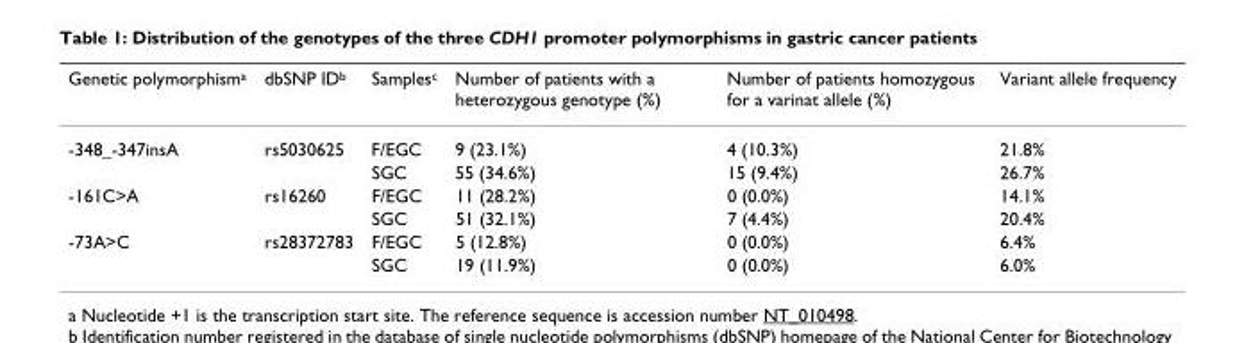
<table><thead><tr><td>Genetic polymorphism<sup>a</sup></td><td>dbSNP ID<sup>b</sup></td><td>Samples<sup>c</sup></td><td>Number of patients with a heterozygous genotype (%)</td><td>Number of patients homozygous for a varinat allele (%)</td><td>Variant allele frequency</td></tr></thead><tbody><tr><td rowspan="2">-348_-347insA</td><td>rs5030625</td><td>F/EGC</td><td>9 (23.1%)</td><td>4 (10.3%)</td><td>21.8%</td></tr><tr><td></td><td>SGC</td><td>55 (34.6%)</td><td>15 (9.4%)</td><td>26.7%</td></tr><tr><td rowspan="2">-161C&gt;A</td><td>rs16260</td><td>F/EGC</td><td>11 (28.2%)</td><td>0 (0.0%)</td><td>14.1%</td></tr><tr><td></td><td>SGC</td><td>51 (32.1%)</td><td>7 (4.4%)</td><td>20.4%</td></tr><tr><td rowspan="2">-73A&gt;C</td><td>rs28372783</td><td>F/EGC</td><td>5 (12.8%)</td><td>0 (0.0%)</td><td>6.4%</td></tr><tr><td></td><td>SGC</td><td>19 (11.9%)</td><td>0 (0.0%)</td><td>6.0%</td></tr></tbody></table>